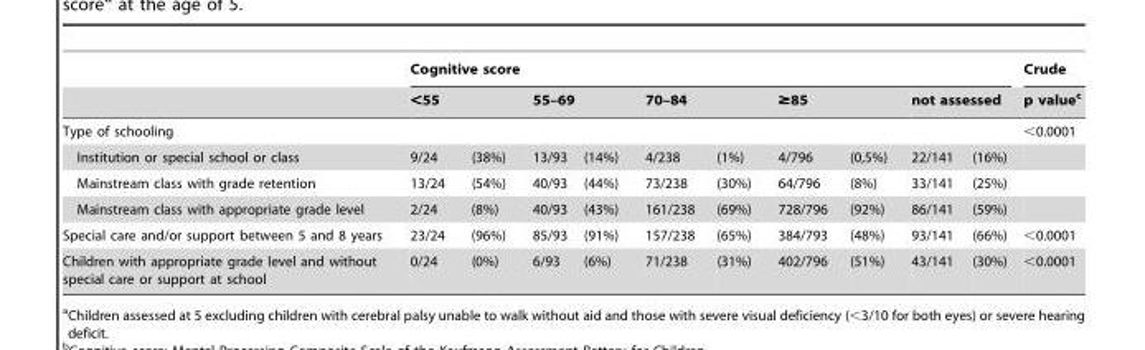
<table><thead><tr><td rowspan="3">Type of schooling</td><td colspan="10">Cognitive score</td><td rowspan="3">Crude p value<sup>c</sup> &lt;0.0001</td></tr><tr><td colspan="2">&lt;55</td><td colspan="2">55–69</td><td colspan="2">70–84</td><td colspan="2">≥85</td><td colspan="2">not assessed</td></tr><tr><td></td><td></td><td></td><td></td><td></td><td></td><td></td><td></td><td></td><td></td></tr></thead><tbody><tr><td>Institution or special school or class</td><td>9/24</td><td>(38%)</td><td>13/93</td><td>(14%)</td><td>4/238</td><td>(1%)</td><td>4/796</td><td>(0,5%)</td><td>22/141</td><td>(16%)</td><td></td></tr><tr><td>Mainstream class with grade retention</td><td>13/24</td><td>(54%)</td><td>40/93</td><td>(44%)</td><td>73/238</td><td>(30%)</td><td>64/796</td><td>(8%)</td><td>33/141</td><td>(25%)</td><td></td></tr><tr><td>Mainstream class with appropriate grade level</td><td>2/24</td><td>(8%)</td><td>40/93</td><td>(43%)</td><td>161/238</td><td>(69%)</td><td>728/796</td><td>(92%)</td><td>86/141</td><td>(59%)</td><td></td></tr><tr><td>Special care and/or support between 5 and 8 years</td><td>23/24</td><td>(96%)</td><td>85/93</td><td>(91%)</td><td>157/238</td><td>(65%)</td><td>384/793</td><td>(48%)</td><td>93/141</td><td>(66%)</td><td>&lt;0.0001</td></tr><tr><td>Children with appropriate grade level and without special care or support at school</td><td>0/24</td><td>(0%)</td><td>6/93</td><td>(6%)</td><td>71/238</td><td>(31%)</td><td>402/796</td><td>(51%)</td><td>43/141</td><td>(30%)</td><td>&lt;0.0001</td></tr></tbody></table>